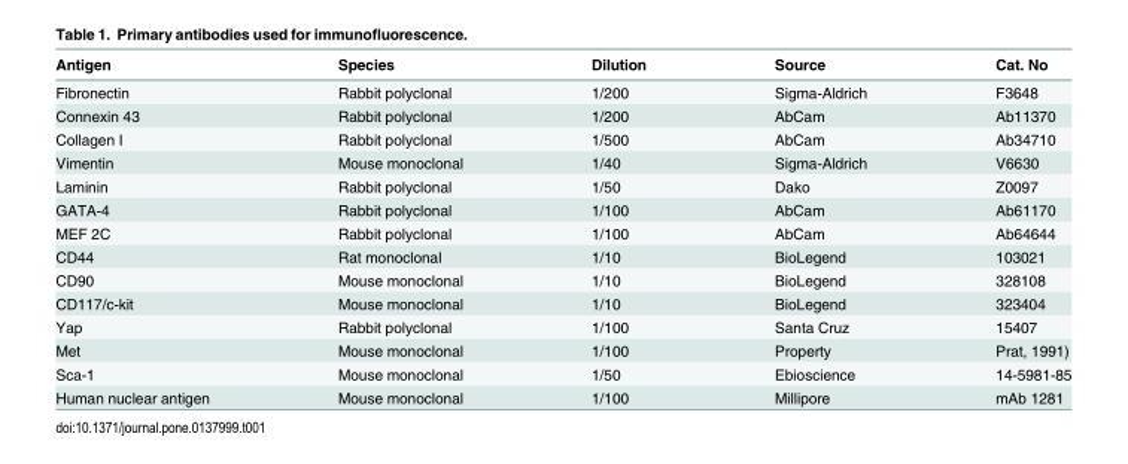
<table><thead><tr><td>Antigen</td><td>Species</td><td>Dilution</td><td>Source</td><td>Cat. No</td></tr></thead><tbody><tr><td>Fibronectin</td><td>Rabbit polyclonal</td><td>1/200</td><td>Sigma-Aldrich</td><td>F3648</td></tr><tr><td>Connexin 43</td><td>Rabbit polyclonal</td><td>1/200</td><td>AbCam</td><td>Ab11370</td></tr><tr><td>Collagen I</td><td>Rabbit polyclonal</td><td>1/500</td><td>AbCam</td><td>Ab34710</td></tr><tr><td>Vimentin</td><td>Mouse monoclonal</td><td>1/40</td><td>Sigma-Aldrich</td><td>V6630</td></tr><tr><td>Laminin</td><td>Rabbit polyclonal</td><td>1/50</td><td>Dako</td><td>Z0097</td></tr><tr><td>GATA-4</td><td>Rabbit polyclonal</td><td>1/100</td><td>AbCam</td><td>Ab61170</td></tr><tr><td>MEF 2C</td><td>Rabbit polyclonal</td><td>1/100</td><td>AbCam</td><td>Ab64644</td></tr><tr><td>CD44</td><td>Rat monoclonal</td><td>1/10</td><td>BioLegend</td><td>103021</td></tr><tr><td>CD90</td><td>Mouse monoclonal</td><td>1/10</td><td>BioLegend</td><td>328108</td></tr><tr><td>CD117/c-kit</td><td>Mouse monoclonal</td><td>1/10</td><td>BioLegend</td><td>323404</td></tr><tr><td>Yap</td><td>Rabbit polyclonal</td><td>1/100</td><td>Santa Cruz</td><td>15407</td></tr><tr><td>Met</td><td>Mouse monoclonal</td><td>1/100</td><td>Property</td><td>Prat, 1991)</td></tr><tr><td>Sca-1</td><td>Mouse monoclonal</td><td>1/50</td><td>Ebioscience</td><td>14-5981-85</td></tr><tr><td>Human nuclear antigen</td><td>Mouse monoclonal</td><td>1/100</td><td>Millipore</td><td>mAb 1281</td></tr></tbody></table>